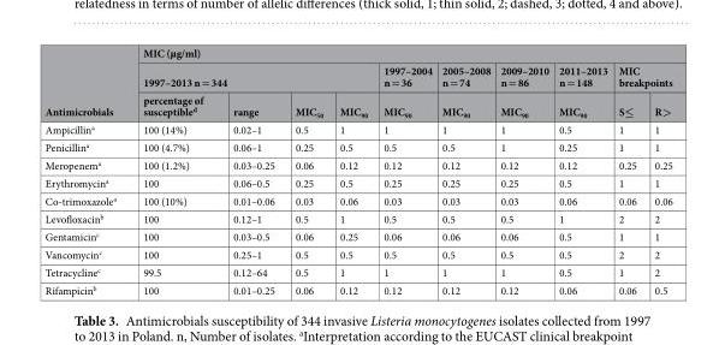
<table><thead><tr><td rowspan="3">Antimicrobials</td><td colspan="10">MIC (µg/ml)</td></tr><tr><td colspan="4">1997–2013 n = 344</td><td rowspan="2">1997–2004 n = 36 MIC<sub>90</sub></td><td rowspan="2">2005–2008 n = 74 MIC<sub>90</sub></td><td rowspan="2">2009–2010 n = 86 MIC<sub>90</sub></td><td rowspan="2">2011–2013 n = 148 MIC<sub>90</sub></td><td colspan="2">MIC breakpoints</td></tr><tr><td>percentage of susceptible<sup>d</sup></td><td>range</td><td>MIC<sub>50</sub></td><td>MIC<sub>90</sub></td><td>S≤</td><td>R&gt;</td></tr></thead><tbody><tr><td>Ampicillin<sup>a</sup></td><td>100 (14%)</td><td>0.02–1</td><td>0.5</td><td>1</td><td>1</td><td>1</td><td>1</td><td>0.5</td><td>1</td><td>1</td></tr><tr><td>Penicillin<sup>a</sup></td><td>100 (4.7%)</td><td>0.06–1</td><td>0.25</td><td>0.5</td><td>0.5</td><td>0.5</td><td>1</td><td>0.25</td><td>1</td><td>1</td></tr><tr><td>Meropenem<sup>a</sup></td><td>100 (1.2%)</td><td>0.03–0.25</td><td>0.06</td><td>0.12</td><td>0.12</td><td>0.12</td><td>0.12</td><td>0.12</td><td>0.25</td><td>0.25</td></tr><tr><td>Erythromycin<sup>a</sup></td><td>100</td><td>0.06–0.5</td><td>0.25</td><td>0.5</td><td>0.25</td><td>0.25</td><td>0.25</td><td>0.5</td><td>1</td><td>1</td></tr><tr><td>Co-trimoxazole<sup>a</sup></td><td>100 (10%)</td><td>0.01–0.06</td><td>0.03</td><td>0.06</td><td>0.03</td><td>0.03</td><td>0.03</td><td>0.06</td><td>0.06</td><td>0.06</td></tr><tr><td>Levofloxacin<sup>b</sup></td><td>100</td><td>0.12–1</td><td>0.5</td><td>1</td><td>0.5</td><td>0.5</td><td>0.5</td><td>1</td><td>2</td><td>2</td></tr><tr><td>Gentamicin<sup>c</sup></td><td>100</td><td>0.03–0.5</td><td>0.06</td><td>0.25</td><td>0.06</td><td>0.06</td><td>0.06</td><td>0.5</td><td>1</td><td>1</td></tr><tr><td>Vancomycin<sup>c</sup></td><td>100</td><td>0.25–1</td><td>0.5</td><td>0.5</td><td>0.5</td><td>0.5</td><td>0.5</td><td>0.5</td><td>2</td><td>2</td></tr><tr><td>Tetracycline<sup>c</sup></td><td>99.5</td><td>0.12–64</td><td>0.5</td><td>1</td><td>1</td><td>1</td><td>1</td><td>0.5</td><td>1</td><td>2</td></tr><tr><td>Rifampicin<sup>b</sup></td><td>100</td><td>0.01–0.25</td><td>0.06</td><td>0.12</td><td>0.12</td><td>0.12</td><td>0.12</td><td>0.06</td><td>0.06</td><td>0.5</td></tr></tbody></table>